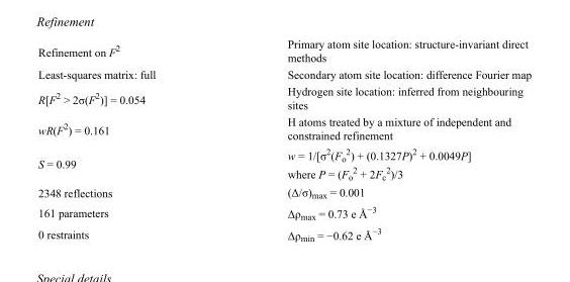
<table><tbody><tr><td>Refinement on F<sup>2</sup></td><td>Primary atom site location: structure-invariant direct methods</td></tr><tr><td>Least-squares matrix: full</td><td>Secondary atom site location: difference Fourier map</td></tr><tr><td>R[F<sup>2</sup> &gt; 2σ(F<sup>2</sup>)] = 0.054</td><td>Hydrogen site location: inferred from neighbouring sites</td></tr><tr><td>wR(F<sup>2</sup>) = 0.161</td><td>H atoms treated by a mixture of independent and constrained refinement</td></tr><tr><td>S = 0.99</td><td>w = 1/[σ<sup>2</sup>(F<sub>o</sub> <sup>2</sup>) + (0.1327P)<sup>2</sup> + 0.0049P] where P = (F<sub>o</sub> <sup>2</sup> + 2F<sub>c</sub> <sup>2</sup>)/3</td></tr><tr><td>2348 reflections</td><td>(Δ/σ)<sub>max</sub> = 0.001</td></tr><tr><td>161 parameters</td><td>Δρ<sub>max</sub> = 0.73 e Å<sup>−3</sup></td></tr><tr><td>0 restraints</td><td>Δρ<sub>min</sub> = −0.62 e Å<sup>−3</sup></td></tr></tbody></table>